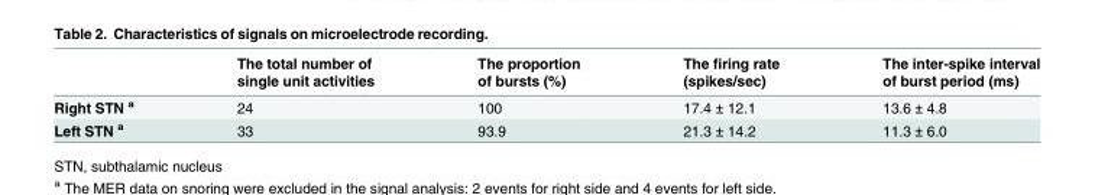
<table><thead><tr><td></td><td>The total number of single unit activities</td><td>The proportion of bursts (%)</td><td>The firing rate (spikes/sec)</td><td>The inter-spike interval of burst period (ms)</td></tr></thead><tbody><tr><td>Right STN <sup>a</sup></td><td>24</td><td>100</td><td>17.4 ± 12.1</td><td>13.6 ± 4.8</td></tr><tr><td>Left STN <sup>a</sup></td><td>33</td><td>93.9</td><td>21.3 ± 14.2</td><td>11.3 ± 6.0</td></tr></tbody></table>